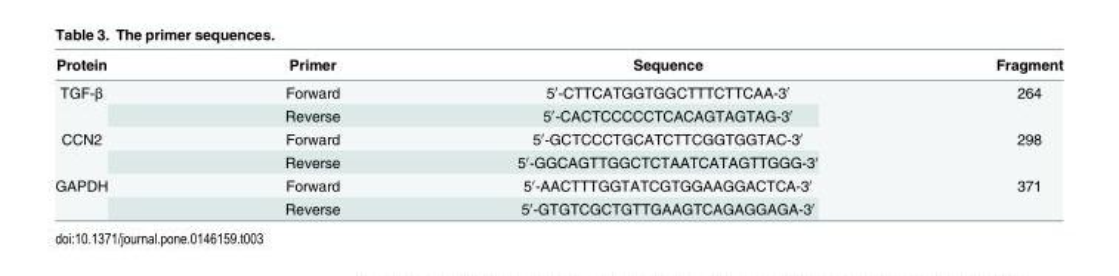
<table><thead><tr><td>Protein</td><td>Primer</td><td>Sequence</td><td>Fragment</td></tr></thead><tbody><tr><td rowspan="2">TGF-β</td><td>Forward</td><td>5′-CTTCATGGTGGCTTTCTTCAA-3′</td><td rowspan="2">264</td></tr><tr><td>Reverse</td><td>5′-CACTCCCCCTCACAGTAGTAG-3′</td></tr><tr><td rowspan="2">CCN2</td><td>Forward</td><td>5′-GCTCCCTGCATCTTCGGTGGTAC-3′</td><td rowspan="2">298</td></tr><tr><td>Reverse</td><td>5′-GGCAGTTGGCTCTAATCATAGTTGGG-3′</td></tr><tr><td rowspan="2">GAPDH</td><td>Forward</td><td>5′-AACTTTGGTATCGTGGAAGGACTCA-3′</td><td rowspan="2">371</td></tr><tr><td>Reverse</td><td>5′-GTGTCGCTGTTGAAGTCAGAGGAGA-3′</td></tr></tbody></table>